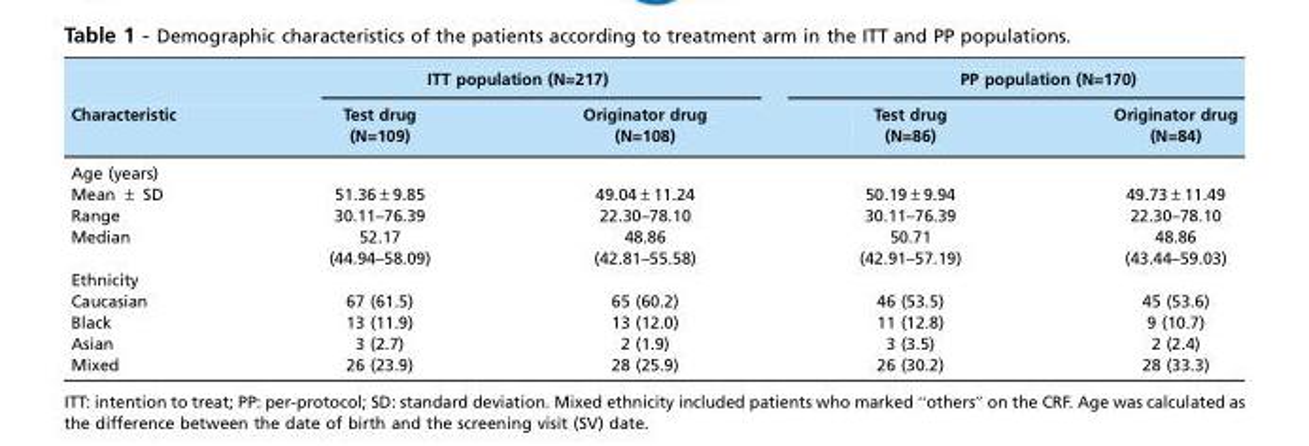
<table><thead><tr><td rowspan="2">Characteristic</td><td colspan="2">ITT population (N=217)</td><td colspan="2">PP population (N=170)</td></tr><tr><td>Test drug (N=109)</td><td>Originator drug (N=108)</td><td>Test drug (N=86)</td><td>Originator drug (N=84)</td></tr></thead><tbody><tr><td colspan="5">Age (years)</td></tr><tr><td>Mean ± SD</td><td>51.36±9.85</td><td>49.04±11.24</td><td>50.19±9.94</td><td>49.73±11.49</td></tr><tr><td>Range</td><td>30.11–76.39</td><td>22.30–78.10</td><td>30.11–76.39</td><td>22.30–78.10</td></tr><tr><td>Median</td><td>52.17 (44.94–58.09)</td><td>48.86 (42.81–55.58)</td><td>50.71 (42.91–57.19)</td><td>48.86 (43.44–59.03)</td></tr><tr><td colspan="5">Ethnicity</td></tr><tr><td>Caucasian</td><td>67 (61.5)</td><td>65 (60.2)</td><td>46 (53.5)</td><td>45 (53.6)</td></tr><tr><td>Black</td><td>13 (11.9)</td><td>13 (12.0)</td><td>11 (12.8)</td><td>9 (10.7)</td></tr><tr><td>Asian</td><td>3 (2.7)</td><td>2 (1.9)</td><td>3 (3.5)</td><td>2 (2.4)</td></tr><tr><td>Mixed</td><td>26 (23.9)</td><td>28 (25.9)</td><td>26 (30.2)</td><td>28 (33.3)</td></tr></tbody></table>